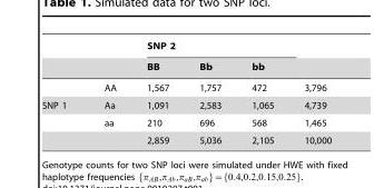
<table><thead><tr><td rowspan="2"></td><td rowspan="2"></td><td colspan="3">SNP 2</td><td rowspan="2"></td></tr><tr><td>BB</td><td>Bb</td><td>bb</td></tr></thead><tbody><tr><td></td><td>AA</td><td>1,567</td><td>1,757</td><td>472</td><td>3,796</td></tr><tr><td rowspan="3">SNP 1</td><td>Aa</td><td>1,091</td><td>2,583</td><td>1,065</td><td>4,739</td></tr><tr><td>aa</td><td>210</td><td>696</td><td>568</td><td>1,465</td></tr><tr><td></td><td>2,859</td><td>5,036</td><td>2,105</td><td>10,000</td></tr></tbody></table>